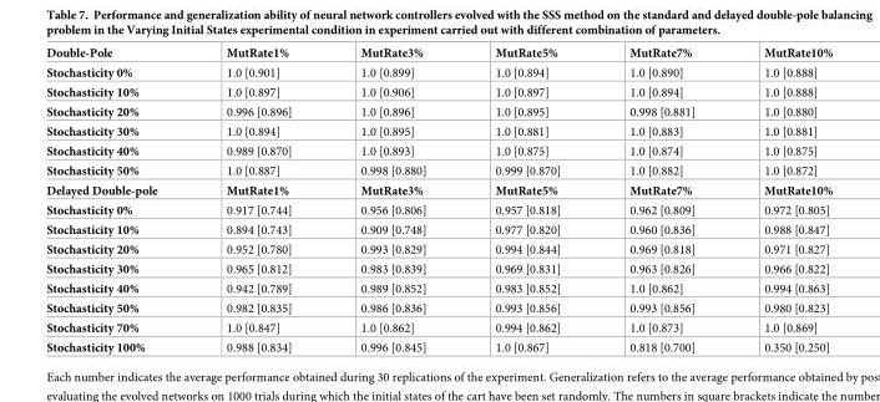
<table><tbody><tr><td>Double-Pole</td><td>MutRate1%</td><td>MutRate3%</td><td>MutRate5%</td><td>MutRate7%</td><td>MutRate10%</td></tr><tr><td>Stochasticity 0%</td><td>1.0 [0.901]</td><td>1.0 [0.899]</td><td>1.0 [0.894]</td><td>1.0 [0.890]</td><td>1.0 [0.888]</td></tr><tr><td>Stochasticity 10%</td><td>1.0 [0.897]</td><td>1.0 [0.906]</td><td>1.0 [0.897]</td><td>1.0 [0.894]</td><td>1.0 [0.888]</td></tr><tr><td>Stochasticity 20%</td><td>0.996 [0.896]</td><td>1.0 [0.896]</td><td>1.0 [0.895]</td><td>0.998 [0.881]</td><td>1.0 [0.880]</td></tr><tr><td>Stochasticity 30%</td><td>1.0 [0.894]</td><td>1.0 [0.895]</td><td>1.0 [0.881]</td><td>1.0 [0.883]</td><td>1.0 [0.881]</td></tr><tr><td>Stochasticity 40%</td><td>0.989 [0.870]</td><td>1.0 [0.893]</td><td>1.0 [0.875]</td><td>1.0 [0.874]</td><td>1.0 [0.875]</td></tr><tr><td>Stochasticity 50%</td><td>1.0 [0.887]</td><td>0.998 [0.880]</td><td>0.999 [0.870]</td><td>1.0 [0.882]</td><td>1.0 [0.872]</td></tr><tr><td>Delayed Double-pole</td><td>MutRate1%</td><td>MutRate3%</td><td>MutRate5%</td><td>MutRate7%</td><td>MutRate10%</td></tr><tr><td>Stochasticity 0%</td><td>0.917 [0.744]</td><td>0.956 [0.806]</td><td>0.957 [0.818]</td><td>0.962 [0.809]</td><td>0.972 [0.805]</td></tr><tr><td>Stochasticity 10%</td><td>0.894 [0.743]</td><td>0.909 [0.748]</td><td>0.977 [0.820]</td><td>0.960 [0.836]</td><td>0.988 [0.847]</td></tr><tr><td>Stochasticity 20%</td><td>0.952 [0.780]</td><td>0.993 [0.829]</td><td>0.994 [0.844]</td><td>0.969 [0.818]</td><td>0.971 [0.827]</td></tr><tr><td>Stochasticity 30%</td><td>0.965 [0.812]</td><td>0.983 [0.839]</td><td>0.969 [0.831]</td><td>0.963 [0.826]</td><td>0.966 [0.822]</td></tr><tr><td>Stochasticity 40%</td><td>0.942 [0.789]</td><td>0.989 [0.852]</td><td>0.983 [0.852]</td><td>1.0 [0.862]</td><td>0.994 [0.863]</td></tr><tr><td>Stochasticity 50%</td><td>0.982 [0.835]</td><td>0.986 [0.836]</td><td>0.993 [0.856]</td><td>0.993 [0.856]</td><td>0.980 [0.823]</td></tr><tr><td>Stochasticity 70%</td><td>1.0 [0.847]</td><td>1.0 [0.862]</td><td>0.994 [0.862]</td><td>1.0 [0.873]</td><td>1.0 [0.869]</td></tr><tr><td>Stochasticity 100%</td><td>0.988 [0.834]</td><td>0.996 [0.845]</td><td>1.0 [0.867]</td><td>0.818 [0.700]</td><td>0.350 [0.250]</td></tr></tbody></table>